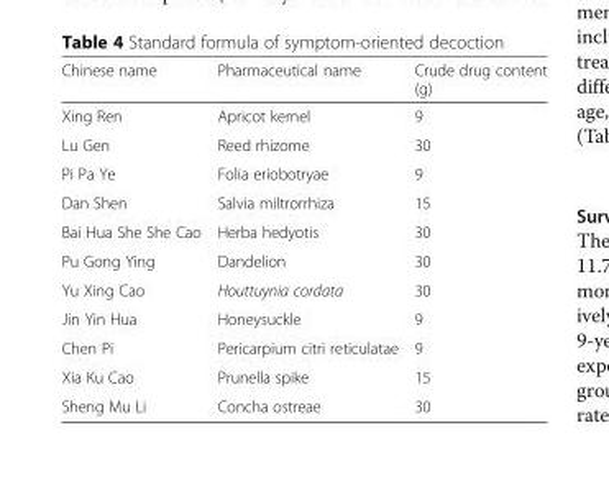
<table><thead><tr><td>Chinese name</td><td>Pharmaceutical name</td><td>Crude drug content (g)</td></tr></thead><tbody><tr><td>Xing Ren</td><td>Apricot kernel</td><td>9</td></tr><tr><td>Lu Gen</td><td>Reed rhizome</td><td>30</td></tr><tr><td>Pi Pa Ye</td><td>Folia eriobotryae</td><td>9</td></tr><tr><td>Dan Shen</td><td>Salvia miltrorrhiza</td><td>15</td></tr><tr><td>Bai Hua She She Cao</td><td>Herba hedyotis</td><td>30</td></tr><tr><td>Pu Gong Ying</td><td>Dandelion</td><td>30</td></tr><tr><td>Yu Xing Cao</td><td>Houttuynia cordata</td><td>30</td></tr><tr><td>Jin Yin Hua</td><td>Honeysuckle</td><td>9</td></tr><tr><td>Chen Pi</td><td>Pericarpium citri reticulatae</td><td>9</td></tr><tr><td>Xia Ku Cao</td><td>Prunella spike</td><td>15</td></tr><tr><td>Sheng Mu Li</td><td>Concha ostreae</td><td>30</td></tr></tbody></table>